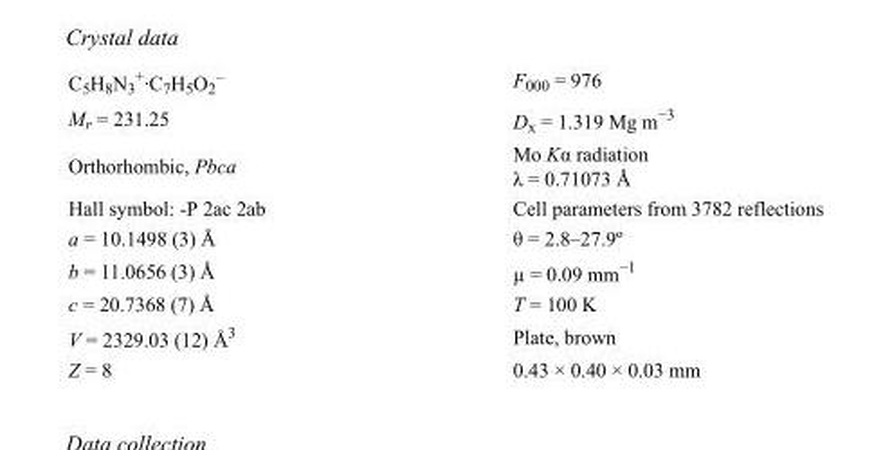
<table><tbody><tr><td>C<sub>5</sub>H<sub>8</sub>N<sub>3</sub> <sup>+</sup>·C<sub>7</sub>H<sub>5</sub>O<sub>2</sub> <sup>–</sup></td><td>F000 = 976</td></tr><tr><td>M<sub>r</sub> = 231.25</td><td>D<sub>x</sub> = 1.319 Mg m<sup>−3</sup></td></tr><tr><td>Orthorhombic, Pbca</td><td>Mo Kα radiation λ = 0.71073 Å</td></tr><tr><td>Hall symbol: -P 2ac 2ab</td><td>Cell parameters from 3782 reflections</td></tr><tr><td>a = 10.1498 (3) Å</td><td>θ = 2.8–27.9º</td></tr><tr><td>b = 11.0656 (3) Å</td><td>µ = 0.09 mm<sup>−1</sup></td></tr><tr><td>c = 20.7368 (7) Å</td><td>T = 100 K</td></tr><tr><td>V = 2329.03 (12) Å<sup>3</sup></td><td>Plate, brown</td></tr><tr><td>Z = 8</td><td>0.43 × 0.40 × 0.03 mm</td></tr></tbody></table>